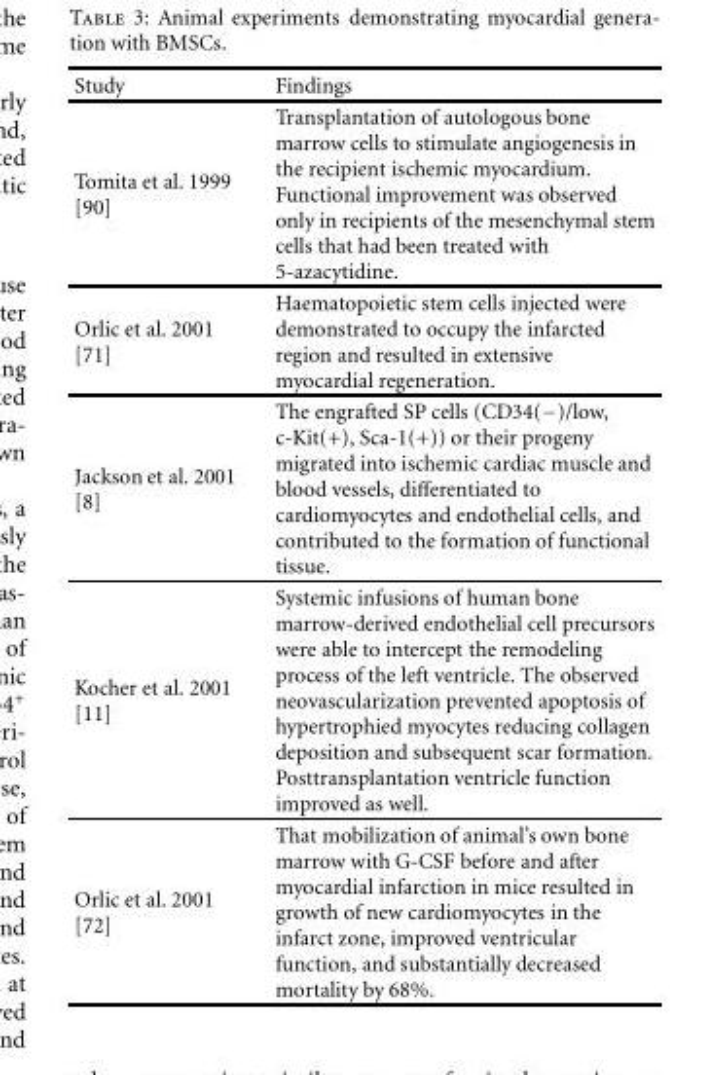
<table><thead><tr><td>Study</td><td>Findings</td></tr></thead><tbody><tr><td>Tomita et al. 1999 [90]</td><td>Transplantation of autologous bone marrow cells to stimulate angiogenesis in the recipient ischemic myocardium. Functional improvement was observed only in recipients of the mesenchymal stem cells that had been treated with 5-azacytidine.</td></tr><tr><td>Orlic et al. 2001 [71]</td><td>Haematopoietic stem cells injected were demonstrated to occupy the infarcted region and resulted in extensive myocardial regeneration.</td></tr><tr><td>Jackson et al. 2001 [8]</td><td>The engrafted SP cells (CD34(−)/low, c-Kit(+), Sca-1(+)) or their progeny migrated into ischemic cardiac muscle and blood vessels, differentiated to cardiomyocytes and endothelial cells, and contributed to the formation of functional tissue.</td></tr><tr><td>Kocher et al. 2001 [11]</td><td>Systemic infusions of human bone marrow-derived endothelial cell precursors were able to intercept the remodeling process of the left ventricle. The observed neovascularization prevented apoptosis of hypertrophied myocytes reducing collagen deposition and subsequent scar formation. Posttransplantation ventricle function improved as well.</td></tr><tr><td>Orlic et al. 2001 [72]</td><td>That mobilization of animal’s own bone marrow with G-CSF before and after myocardial infarction in mice resulted in growth of new cardiomyocytes in the infarct zone, improved ventricular function, and substantially decreased mortality by 68%.</td></tr></tbody></table>